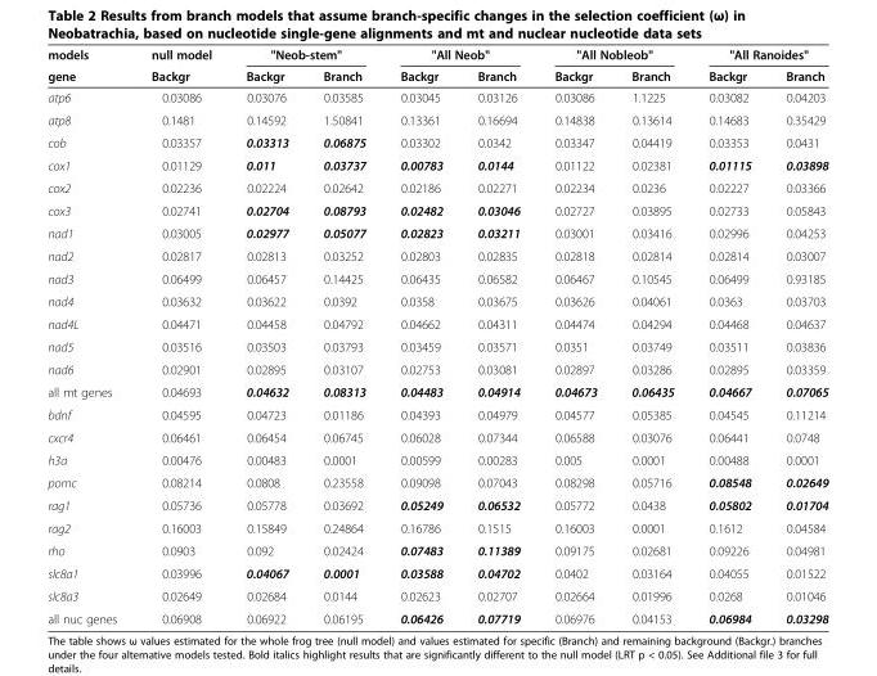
<table><thead><tr><td rowspan="2">models gene</td><td rowspan="2">null model Backgr</td><td colspan="2">&quot;Neob-stem&quot;</td><td colspan="2">&quot;All Neob&quot;</td><td colspan="2">&quot;All Nobleob&quot;</td><td colspan="2">&quot;All Ranoides&quot;</td></tr><tr><td>Backgr</td><td>Branch</td><td>Backgr</td><td>Branch</td><td>Backgr</td><td>Branch</td><td>Backgr</td><td>Branch</td></tr></thead><tbody><tr><td>atp6</td><td>0.03086</td><td>0.03076</td><td>0.03585</td><td>0.03045</td><td>0.03126</td><td>0.03086</td><td>1.1225</td><td>0.03082</td><td>0.04203</td></tr><tr><td>atp8</td><td>0.1481</td><td>0.14592</td><td>1.50841</td><td>0.13361</td><td>0.16694</td><td>0.14838</td><td>0.13614</td><td>0.14683</td><td>0.35429</td></tr><tr><td>cob</td><td>0.03357</td><td>0.03313</td><td>0.06875</td><td>0.03302</td><td>0.0342</td><td>0.03347</td><td>0.04419</td><td>0.03353</td><td>0.0431</td></tr><tr><td>cox1</td><td>0.01129</td><td>0.011</td><td>0.03737</td><td>0.00783</td><td>0.0144</td><td>0.01122</td><td>0.02381</td><td>0.01115</td><td>0.03898</td></tr><tr><td>cox2</td><td>0.02236</td><td>0.02224</td><td>0.02642</td><td>0.02186</td><td>0.02271</td><td>0.02234</td><td>0.0236</td><td>0.02227</td><td>0.03366</td></tr><tr><td>cox3</td><td>0.02741</td><td>0.02704</td><td>0.08793</td><td>0.02482</td><td>0.03046</td><td>0.02727</td><td>0.03895</td><td>0.02733</td><td>0.05843</td></tr><tr><td>nad1</td><td>0.03005</td><td>0.02977</td><td>0.05077</td><td>0.02823</td><td>0.03211</td><td>0.03001</td><td>0.03416</td><td>0.02996</td><td>0.04253</td></tr><tr><td>nad2</td><td>0.02817</td><td>0.02813</td><td>0.03252</td><td>0.02803</td><td>0.02835</td><td>0.02818</td><td>0.02814</td><td>0.02814</td><td>0.03007</td></tr><tr><td>nad3</td><td>0.06499</td><td>0.06457</td><td>0.14425</td><td>0.06435</td><td>0.06582</td><td>0.06467</td><td>0.10545</td><td>0.06499</td><td>0.93185</td></tr><tr><td>nad4</td><td>0.03632</td><td>0.03622</td><td>0.0392</td><td>0.0358</td><td>0.03675</td><td>0.03626</td><td>0.04061</td><td>0.0363</td><td>0.03703</td></tr><tr><td>nad4L</td><td>0.04471</td><td>0.04458</td><td>0.04792</td><td>0.04662</td><td>0.04311</td><td>0.04474</td><td>0.04294</td><td>0.04468</td><td>0.04637</td></tr><tr><td>nad5</td><td>0.03516</td><td>0.03503</td><td>0.03793</td><td>0.03459</td><td>0.03571</td><td>0.0351</td><td>0.03749</td><td>0.03511</td><td>0.03836</td></tr><tr><td>nad6</td><td>0.02901</td><td>0.02895</td><td>0.03107</td><td>0.02753</td><td>0.03081</td><td>0.02897</td><td>0.03286</td><td>0.02895</td><td>0.03359</td></tr><tr><td>all mt genes</td><td>0.04693</td><td>0.04632</td><td>0.08313</td><td>0.04483</td><td>0.04914</td><td>0.04673</td><td>0.06435</td><td>0.04667</td><td>0.07065</td></tr><tr><td>bdnf</td><td>0.04595</td><td>0.04723</td><td>0.01186</td><td>0.04393</td><td>0.04979</td><td>0.04577</td><td>0.05385</td><td>0.04545</td><td>0.11214</td></tr><tr><td>cxcr4</td><td>0.06461</td><td>0.06454</td><td>0.06745</td><td>0.06028</td><td>0.07344</td><td>0.06588</td><td>0.03076</td><td>0.06441</td><td>0.0748</td></tr><tr><td>h3a</td><td>0.00476</td><td>0.00483</td><td>0.0001</td><td>0.00599</td><td>0.00283</td><td>0.005</td><td>0.0001</td><td>0.00488</td><td>0.0001</td></tr><tr><td>pomc</td><td>0.08214</td><td>0.0808</td><td>0.23558</td><td>0.09098</td><td>0.07043</td><td>0.08298</td><td>0.05716</td><td>0.08548</td><td>0.02649</td></tr><tr><td>rag1</td><td>0.05736</td><td>0.05778</td><td>0.03692</td><td>0.05249</td><td>0.06532</td><td>0.05772</td><td>0.0438</td><td>0.05802</td><td>0.01704</td></tr><tr><td>rag2</td><td>0.16003</td><td>0.15849</td><td>0.24864</td><td>0.16786</td><td>0.1515</td><td>0.16003</td><td>0.0001</td><td>0.1612</td><td>0.04584</td></tr><tr><td>rho</td><td>0.0903</td><td>0.092</td><td>0.02424</td><td>0.07483</td><td>0.11389</td><td>0.09175</td><td>0.02681</td><td>0.09226</td><td>0.04981</td></tr><tr><td>slc8a1</td><td>0.03996</td><td>0.04067</td><td>0.0001</td><td>0.03588</td><td>0.04702</td><td>0.0402</td><td>0.03164</td><td>0.04055</td><td>0.01522</td></tr><tr><td>slc8a3</td><td>0.02649</td><td>0.02684</td><td>0.0144</td><td>0.02623</td><td>0.02707</td><td>0.02664</td><td>0.01996</td><td>0.0268</td><td>0.01046</td></tr><tr><td>all nuc genes</td><td>0.06908</td><td>0.06922</td><td>0.06195</td><td>0.06426</td><td>0.07719</td><td>0.06976</td><td>0.04153</td><td>0.06984</td><td>0.03298</td></tr></tbody></table>